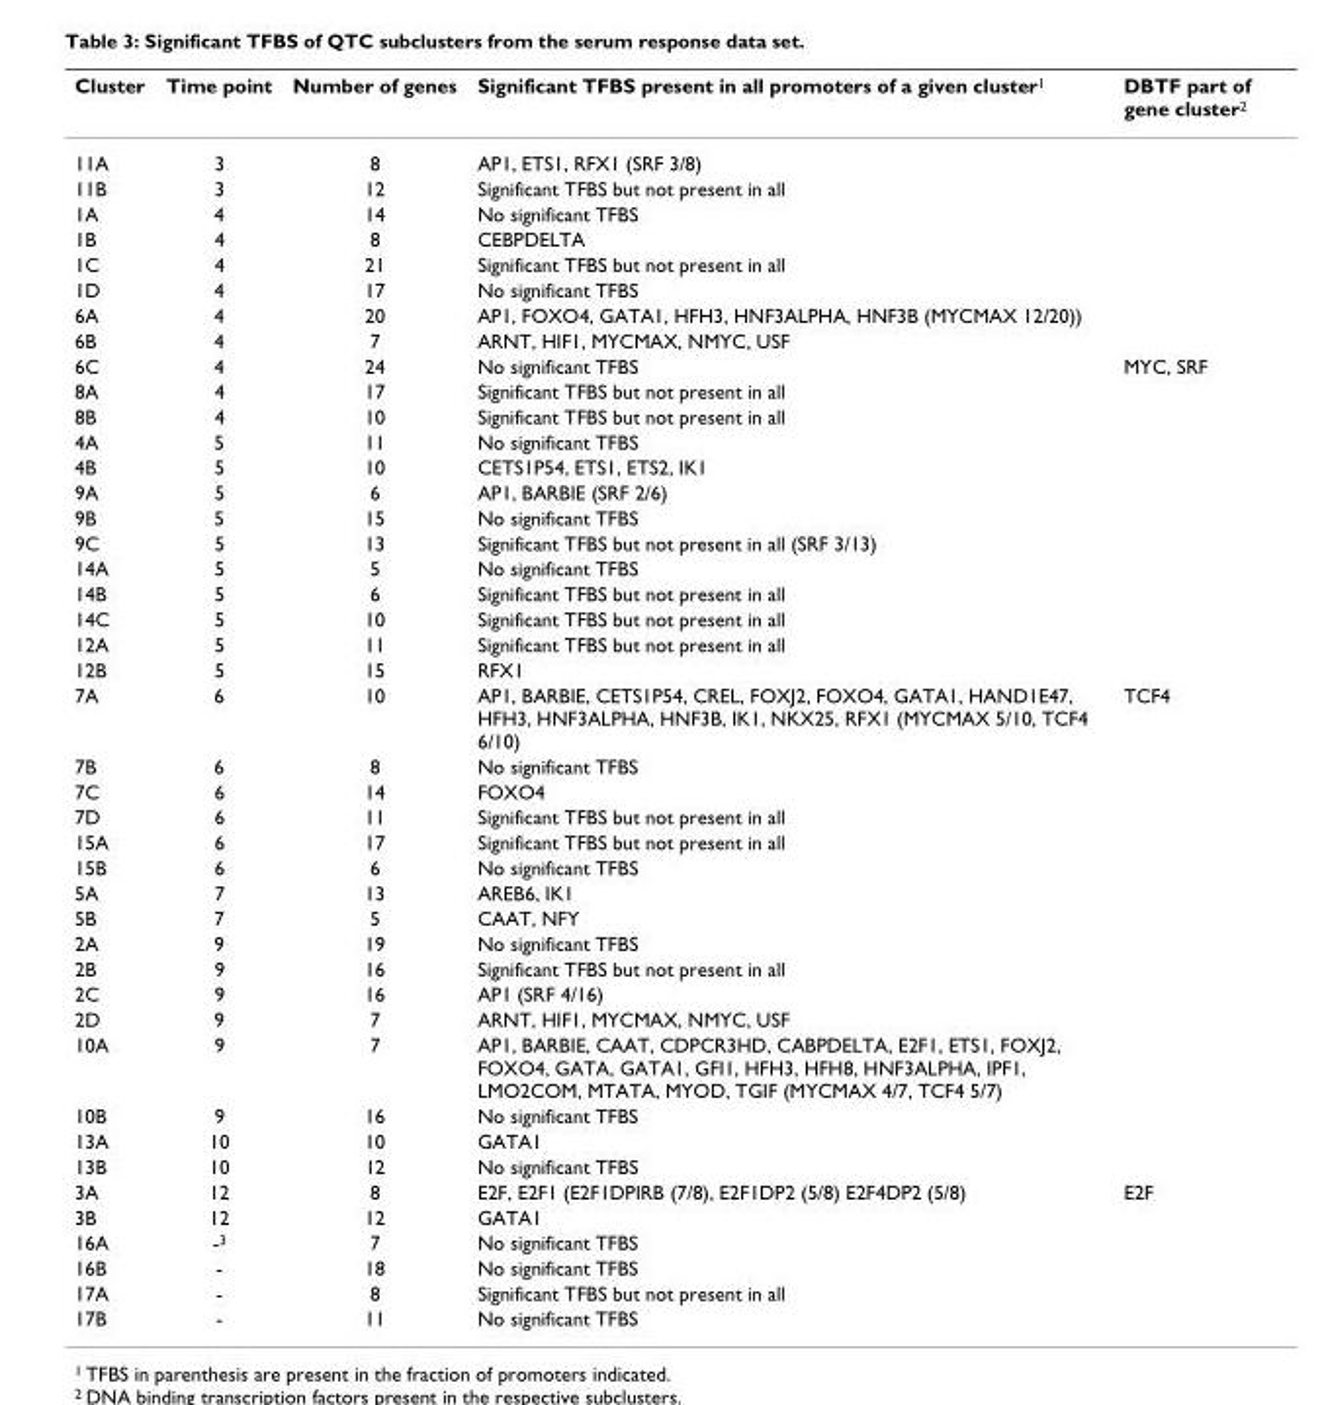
<table><thead><tr><td>Cluster</td><td>Time point</td><td>Number of genes</td><td>Significant TFBS present in all promoters of a given cluster1</td><td>DBTF part of gene cluster2</td></tr></thead><tbody><tr><td>11A</td><td>3</td><td>8</td><td>AP1, ETS1, RFX1 (SRF 3/8)</td><td></td></tr><tr><td>11B</td><td>3</td><td>12</td><td>Significant TFBS but not present in all</td><td></td></tr><tr><td>1A</td><td>4</td><td>14</td><td>No significant TFBS</td><td></td></tr><tr><td>1B</td><td>4</td><td>8</td><td>CEBPDELTA</td><td></td></tr><tr><td>1C</td><td>4</td><td>21</td><td>Significant TFBS but not present in all</td><td></td></tr><tr><td>1D</td><td>4</td><td>17</td><td>No significant TFBS</td><td></td></tr><tr><td>6A</td><td>4</td><td>20</td><td>AP1, FOXO4, GATA1, HFH3, HNF3ALPHA, HNF3B (MYCMAX 12/20))</td><td></td></tr><tr><td>6B</td><td>4</td><td>7</td><td>ARNT, HIF1, MYCMAX, NMYC, USF</td><td></td></tr><tr><td>6C</td><td>4</td><td>24</td><td>No significant TFBS</td><td>MYC, SRF</td></tr><tr><td>8A</td><td>4</td><td>17</td><td>Significant TFBS but not present in all</td><td></td></tr><tr><td>8B</td><td>4</td><td>10</td><td>Significant TFBS but not present in all</td><td></td></tr><tr><td>4A</td><td>5</td><td>11</td><td>No significant TFBS</td><td></td></tr><tr><td>4B</td><td>5</td><td>10</td><td>CETS1P54, ETS1, ETS2, IK1</td><td></td></tr><tr><td>9A</td><td>5</td><td>6</td><td>AP1, BARBIE (SRF 2/6)</td><td></td></tr><tr><td>9B</td><td>5</td><td>15</td><td>No significant TFBS</td><td></td></tr><tr><td>9C</td><td>5</td><td>13</td><td>Significant TFBS but not present in all (SRF 3/13)</td><td></td></tr><tr><td>14A</td><td>5</td><td>5</td><td>No significant TFBS</td><td></td></tr><tr><td>14B</td><td>5</td><td>6</td><td>Significant TFBS but not present in all</td><td></td></tr><tr><td>14C</td><td>5</td><td>10</td><td>Significant TFBS but not present in all</td><td></td></tr><tr><td>12A</td><td>5</td><td>11</td><td>Significant TFBS but not present in all</td><td></td></tr><tr><td>12B</td><td>5</td><td>15</td><td>RFX1</td><td></td></tr><tr><td>7A</td><td>6</td><td>10</td><td>AP1, BARBIE, CETS1P54, CREL, FOXJ2, FOXO4, GATA1, HAND1E47, HFH3, HNF3ALPHA, HNF3B, IK1, NKX25, RFX1 (MYCMAX 5/10, TCF4 6/10)</td><td>TCF4</td></tr><tr><td>7B</td><td>6</td><td>8</td><td>No significant TFBS</td><td></td></tr><tr><td>7C</td><td>6</td><td>14</td><td>FOXO4</td><td></td></tr><tr><td>7D</td><td>6</td><td>11</td><td>Significant TFBS but not present in all</td><td></td></tr><tr><td>15A</td><td>6</td><td>17</td><td>Significant TFBS but not present in all</td><td></td></tr><tr><td>15B</td><td>6</td><td>6</td><td>No significant TFBS</td><td></td></tr><tr><td>5A</td><td>7</td><td>13</td><td>AREB6, IK1</td><td></td></tr><tr><td>5B</td><td>7</td><td>5</td><td>CAAT, NFY</td><td></td></tr><tr><td>2A</td><td>9</td><td>19</td><td>No significant TFBS</td><td></td></tr><tr><td>2B</td><td>9</td><td>16</td><td>Significant TFBS but not present in all</td><td></td></tr><tr><td>2C</td><td>9</td><td>16</td><td>AP1 (SRF 4/16)</td><td></td></tr><tr><td>2D</td><td>9</td><td>7</td><td>ARNT, HIF1, MYCMAX, NMYC, USF</td><td></td></tr><tr><td>10A</td><td>9</td><td>7</td><td>AP1, BARBIE, CAAT, CDPCR3HD, CABPDELTA, E2F1, ETS1, FOXJ2, FOXO4, GATA, GATA1, GFI1, HFH3, HFH8, HNF3ALPHA, IPF1, LMO2COM, MTATA, MYOD, TGIF (MYCMAX 4/7, TCF4 5/7)</td><td></td></tr><tr><td>10B</td><td>9</td><td>16</td><td>No significant TFBS</td><td></td></tr><tr><td>13A</td><td>10</td><td>10</td><td>GATA1</td><td></td></tr><tr><td>13B</td><td>10</td><td>12</td><td>No significant TFBS</td><td></td></tr><tr><td>3A</td><td>12</td><td>8</td><td>E2F, E2F1 (E2F1DPIRB (7/8), E2F1DP2 (5/8) E2F4DP2 (5/8)</td><td>E2F</td></tr><tr><td>3B</td><td>12</td><td>12</td><td>GATA1</td><td></td></tr><tr><td>16A</td><td>-3</td><td>7</td><td>No significant TFBS</td><td></td></tr><tr><td>16B</td><td>-</td><td>18</td><td>No significant TFBS</td><td></td></tr><tr><td>17A</td><td>-</td><td>8</td><td>Significant TFBS but not present in all</td><td></td></tr><tr><td>17B</td><td>-</td><td>11</td><td>No significant TFBS</td><td></td></tr></tbody></table>